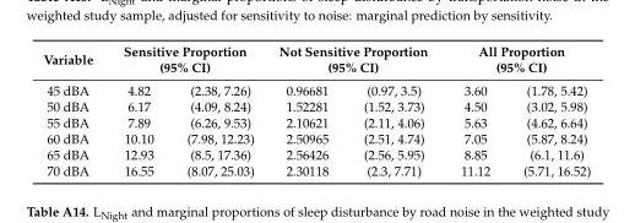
<table><thead><tr><td rowspan="2">Variable 45 dBA</td><td colspan="2">Sensitive Proportion (95% CI)</td><td colspan="2">Not Sensitive Proportion (95% CI)</td><td colspan="2">All Proportion (95% CI)</td></tr><tr><td>4.82</td><td>(2.38, 7.26)</td><td>0.96681</td><td>(0.97, 3.5)</td><td>3.60</td><td>(1.78, 5.42)</td></tr></thead><tbody><tr><td>50 dBA</td><td>6.17</td><td>(4.09, 8.24)</td><td>1.52281</td><td>(1.52, 3.73)</td><td>4.50</td><td>(3.02, 5.98)</td></tr><tr><td>55 dBA</td><td>7.89</td><td>(6.26, 9.53)</td><td>2.10621</td><td>(2.11, 4.06)</td><td>5.63</td><td>(4.62, 6.64)</td></tr><tr><td>60 dBA</td><td>10.10</td><td>(7.98, 12.23)</td><td>2.50965</td><td>(2.51, 4.74)</td><td>7.05</td><td>(5.87, 8.24)</td></tr><tr><td>65 dBA</td><td>12.93</td><td>(8.5, 17.36)</td><td>2.56426</td><td>(2.56, 5.95)</td><td>8.85</td><td>(6.1, 11.6)</td></tr><tr><td>70 dBA</td><td>16.55</td><td>(8.07, 25.03)</td><td>2.30118</td><td>(2.3, 7.71)</td><td>11.12</td><td>(5.71, 16.52)</td></tr></tbody></table>